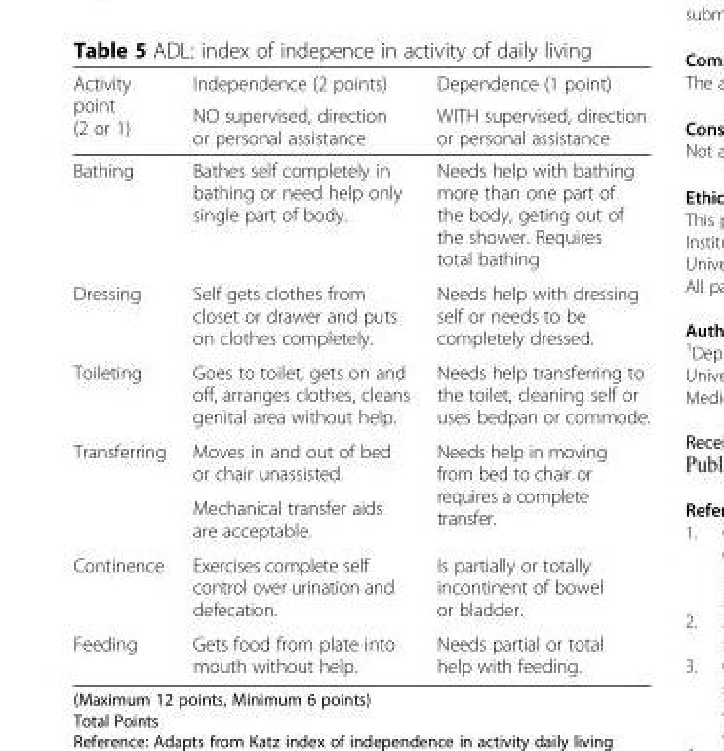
<table><thead><tr><td rowspan="2">Activity point (2 or 1)</td><td rowspan="2">Independence (2 points) NO supervised, direction or personal assistance</td><td rowspan="2">Dependence (1 point) WITH supervised, direction or personal assistance</td></tr><tr></tr></thead><tbody><tr><td>Bathing</td><td>Bathes self completely in bathing or need help only single part of body.</td><td>Needs help with bathing more than one part of the body, geting out of the shower. Requires total bathing</td></tr><tr><td>Dressing</td><td>Self gets clothes from closet or drawer and puts on clothes completely.</td><td>Needs help with dressing self or needs to be completely dressed.</td></tr><tr><td>Toileting</td><td>Goes to toilet, gets on and off, arranges clothes, cleans genital area without help.</td><td>Needs help transferring to the toilet, cleaning self or uses bedpan or commode.</td></tr><tr><td rowspan="2">Transferring</td><td>Moves in and out of bed or chair unassisted.</td><td rowspan="2">Needs help in moving from bed to chair or requires a complete transfer.</td></tr><tr><td>Mechanical transfer aids are acceptable.</td></tr><tr><td>Continence</td><td>Exercises complete self control over urination and defecation.</td><td>Is partially or totally incontinent of bowel or bladder.</td></tr><tr><td>Feeding</td><td>Gets food from plate into mouth without help.</td><td>Needs partial or total help with feeding.</td></tr></tbody></table>